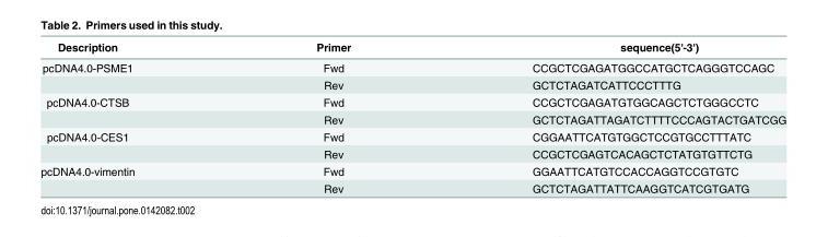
<table><thead><tr><td>Description</td><td>Primer</td><td>sequence(5&#x27;-3&#x27;)</td></tr></thead><tbody><tr><td rowspan="2">pcDNA4.0-PSME1</td><td>Fwd</td><td>CCGCTCGAGATGGCCATGCTCAGGGTCCAGC</td></tr><tr><td>Rev</td><td>GCTCTAGATCATTCCCTTTG</td></tr><tr><td rowspan="2">pcDNA4.0-CTSB</td><td>Fwd</td><td>CCGCTCGAGATGTGGCAGCTCTGGGCCTC</td></tr><tr><td>Rev</td><td>GCTCTAGATTAGATCTTTTCCCAGTACTGATCGG</td></tr><tr><td rowspan="2">pcDNA4.0-CES1</td><td>Fwd</td><td>CGGAATTCATGTGGCTCCGTGCCTTTATC</td></tr><tr><td>Rev</td><td>CCGCTCGAGTCACAGCTCTATGTGTTCTG</td></tr><tr><td rowspan="2">pcDNA4.0-vimentin</td><td>Fwd</td><td>GGAATTCATGTCCACCAGGTCCGTGTC</td></tr><tr><td>Rev</td><td>GCTCTAGATTATTCAAGGTCATCGTGATG</td></tr></tbody></table>